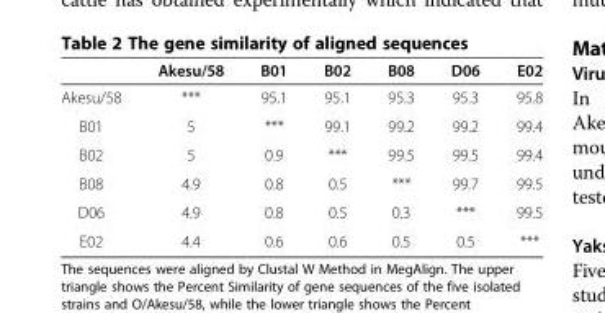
<table><thead><tr><td></td><td>Akesu/58</td><td>B01</td><td>B02</td><td>B08</td><td>D06</td><td>E02</td></tr></thead><tbody><tr><td>Akesu/58</td><td>***</td><td>95.1</td><td>95.1</td><td>95.3</td><td>95.3</td><td>95.8</td></tr><tr><td>B01</td><td>5</td><td>***</td><td>99.1</td><td>99.2</td><td>99.2</td><td>99.4</td></tr><tr><td>B02</td><td>5</td><td>0.9</td><td>***</td><td>99.5</td><td>99.5</td><td>99.4</td></tr><tr><td>B08</td><td>4.9</td><td>0.8</td><td>0.5</td><td>***</td><td>99.7</td><td>99.5</td></tr><tr><td>D06</td><td>4.9</td><td>0.8</td><td>0.5</td><td>0.3</td><td>***</td><td>99.5</td></tr><tr><td>E02</td><td>4.4</td><td>0.6</td><td>0.6</td><td>0.5</td><td>0.5</td><td>***</td></tr></tbody></table>